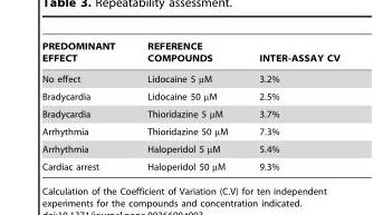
<table><thead><tr><td>PREDOMINANT EFFECT</td><td>REFERENCE COMPOUNDS</td><td>INTER-ASSAY CV</td></tr></thead><tbody><tr><td>No effect</td><td>Lidocaine 5 µM</td><td>3.2%</td></tr><tr><td>Bradycardia</td><td>Lidocaine 50 µM</td><td>2.5%</td></tr><tr><td>Bradycardia</td><td>Thioridazine 5 µM</td><td>3.7%</td></tr><tr><td>Arrhythmia</td><td>Thioridazine 50 µM</td><td>7.3%</td></tr><tr><td>Arrhythmia</td><td>Haloperidol 5 µM</td><td>5.4%</td></tr><tr><td>Cardiac arrest</td><td>Haloperidol 50 µM</td><td>9.3%</td></tr></tbody></table>